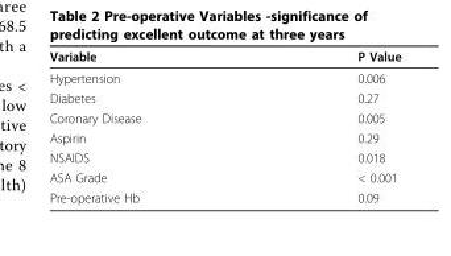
<table><thead><tr><td>Variable</td><td>P Value</td></tr></thead><tbody><tr><td>Hypertension</td><td>0.006</td></tr><tr><td>Diabetes</td><td>0.27</td></tr><tr><td>Coronary Disease</td><td>0.005</td></tr><tr><td>Aspirin</td><td>0.29</td></tr><tr><td>NSAIDS</td><td>0.018</td></tr><tr><td>ASA Grade</td><td>&lt; 0.001</td></tr><tr><td>Pre-operative Hb</td><td>0.09</td></tr></tbody></table>